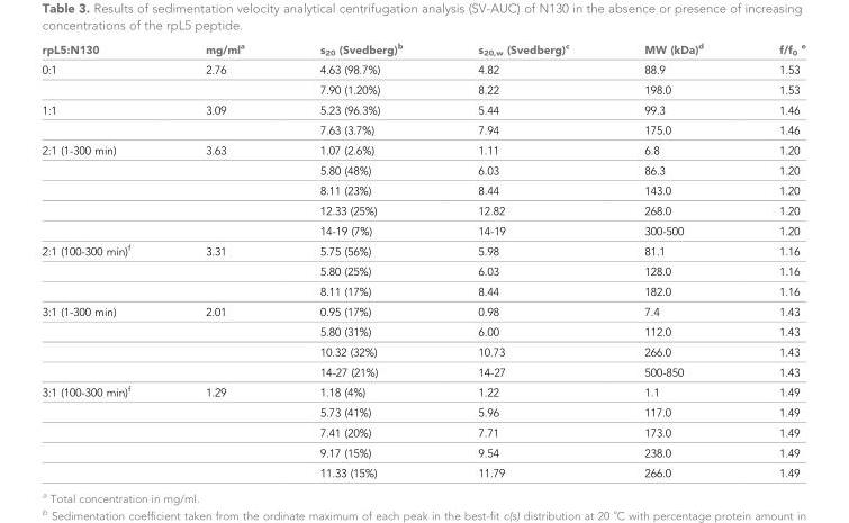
<table><thead><tr><td>rpL5:N130</td><td>mg/ml<sup>a</sup></td><td>s<sub>20</sub> (Svedberg)<sup>b</sup></td><td>s<sub>20,w</sub> (Svedberg)<sup>c</sup></td><td>MW (kDa)<sup>d</sup></td><td>f/f<sub>0</sub> <sup>e</sup></td></tr></thead><tbody><tr><td rowspan="2">0:1</td><td>2.76</td><td>4.63 (98.7%)</td><td>4.82</td><td>88.9</td><td>1.53</td></tr><tr><td></td><td>7.90 (1.20%)</td><td>8.22</td><td>198.0</td><td>1.53</td></tr><tr><td rowspan="2">1:1</td><td>3.09</td><td>5.23 (96.3%)</td><td>5.44</td><td>99.3</td><td>1.46</td></tr><tr><td></td><td>7.63 (3.7%)</td><td>7.94</td><td>175.0</td><td>1.46</td></tr><tr><td rowspan="5">2:1 (1-300 min)</td><td>3.63</td><td>1.07 (2.6%)</td><td>1.11</td><td>6.8</td><td>1.20</td></tr><tr><td></td><td>5.80 (48%)</td><td>6.03</td><td>86.3</td><td>1.20</td></tr><tr><td></td><td>8.11 (23%)</td><td>8.44</td><td>143.0</td><td>1.20</td></tr><tr><td></td><td>12.33 (25%)</td><td>12.82</td><td>268.0</td><td>1.20</td></tr><tr><td></td><td>14-19 (7%)</td><td>14-19</td><td>300-500</td><td>1.20</td></tr><tr><td rowspan="3">2:1 (100-300 min)<sup>f</sup></td><td>3.31</td><td>5.75 (56%)</td><td>5.98</td><td>81.1</td><td>1.16</td></tr><tr><td></td><td>5.80 (25%)</td><td>6.03</td><td>128.0</td><td>1.16</td></tr><tr><td></td><td>8.11 (17%)</td><td>8.44</td><td>182.0</td><td>1.16</td></tr><tr><td rowspan="4">3:1 (1-300 min)</td><td>2.01</td><td>0.95 (17%)</td><td>0.98</td><td>7.4</td><td>1.43</td></tr><tr><td></td><td>5.80 (31%)</td><td>6.00</td><td>112.0</td><td>1.43</td></tr><tr><td></td><td>10.32 (32%)</td><td>10.73</td><td>266.0</td><td>1.43</td></tr><tr><td></td><td>14-27 (21%)</td><td>14-27</td><td>500-850</td><td>1.43</td></tr><tr><td rowspan="5">3:1 (100-300 min)<sup>f</sup></td><td>1.29</td><td>1.18 (4%)</td><td>1.22</td><td>1.1</td><td>1.49</td></tr><tr><td></td><td>5.73 (41%)</td><td>5.96</td><td>117.0</td><td>1.49</td></tr><tr><td></td><td>7.41 (20%)</td><td>7.71</td><td>173.0</td><td>1.49</td></tr><tr><td></td><td>9.17 (15%)</td><td>9.54</td><td>238.0</td><td>1.49</td></tr><tr><td></td><td>11.33 (15%)</td><td>11.79</td><td>266.0</td><td>1.49</td></tr></tbody></table>